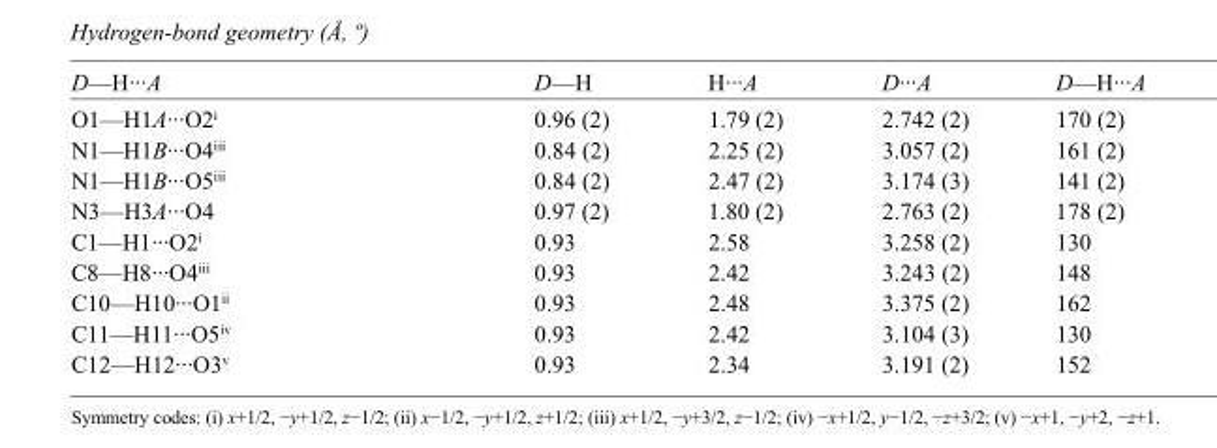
<table><tbody><tr><td>D—H···A</td><td>D—H</td><td>H···A</td><td>D···A</td><td>D—H···A</td></tr><tr><td>O1—H1A···O2<sup>i</sup></td><td>0.96 (2)</td><td>1.79 (2)</td><td>2.742 (2)</td><td>170 (2)</td></tr><tr><td>N1—H1B···O4<sup>iii</sup></td><td>0.84 (2)</td><td>2.25 (2)</td><td>3.057 (2)</td><td>161 (2)</td></tr><tr><td>N1—H1B···O5<sup>iii</sup></td><td>0.84 (2)</td><td>2.47 (2)</td><td>3.174 (3)</td><td>141 (2)</td></tr><tr><td>N3—H3A···O4</td><td>0.97 (2)</td><td>1.80 (2)</td><td>2.763 (2)</td><td>178 (2)</td></tr><tr><td>C1—H1···O2<sup>i</sup></td><td>0.93</td><td>2.58</td><td>3.258 (2)</td><td>130</td></tr><tr><td>C8—H8···O4<sup>iii</sup></td><td>0.93</td><td>2.42</td><td>3.243 (2)</td><td>148</td></tr><tr><td>C10—H10···O1<sup>ii</sup></td><td>0.93</td><td>2.48</td><td>3.375 (2)</td><td>162</td></tr><tr><td>C11—H11···O5<sup>iv</sup></td><td>0.93</td><td>2.42</td><td>3.104 (3)</td><td>130</td></tr><tr><td>C12—H12···O3<sup>v</sup></td><td>0.93</td><td>2.34</td><td>3.191 (2)</td><td>152</td></tr></tbody></table>